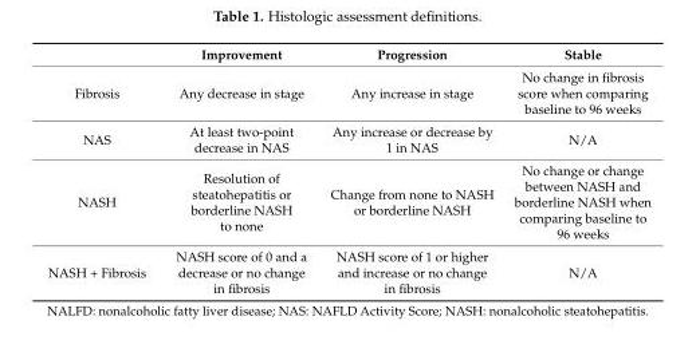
<table><thead><tr><td></td><td>Improvement</td><td>Progression</td><td>Stable</td></tr></thead><tbody><tr><td>Fibrosis</td><td>Any decrease in stage</td><td>Any increase in stage</td><td>No change in fibrosis score when comparing baseline to 96 weeks</td></tr><tr><td>NAS</td><td>At least two-point decrease in NAS</td><td>Any increase or decrease by 1 in NAS</td><td>N/A</td></tr><tr><td>NASH</td><td>Resolution of steatohepatitis or borderline NASH to none</td><td>Change from none to NASH or borderline NASH</td><td>No change or change between NASH and borderline NASH when comparing baseline to 96 weeks</td></tr><tr><td>NASH + Fibrosis</td><td>NASH score of 0 and a decrease or no change in fibrosis</td><td>NASH score of 1 or higher and increase or no change in fibrosis</td><td>N/A</td></tr></tbody></table>